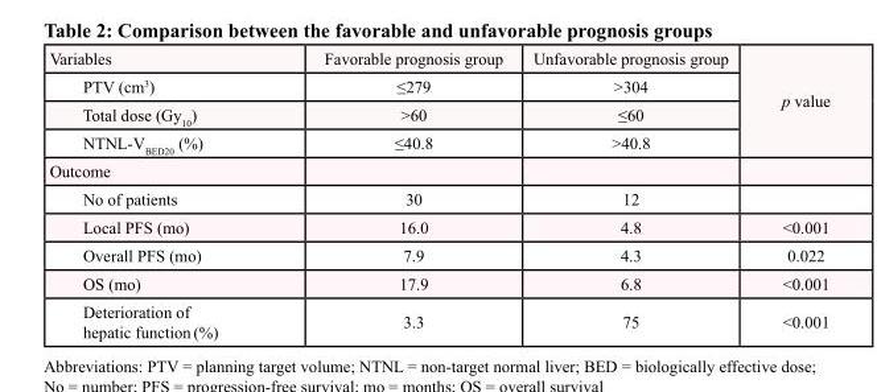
<table><tbody><tr><td>Variables</td><td>Favorable prognosis group</td><td>Unfavorable prognosis group</td><td rowspan="4">p value</td></tr><tr><td>PTV (cm<sup>3</sup>)</td><td>≤279</td><td>&gt;304</td></tr><tr><td>Total dose (Gy<sub>10</sub>)</td><td>&gt;60</td><td>≤60</td></tr><tr><td>NTNL-V<sub>BED20</sub> (%)</td><td>≤40.8</td><td>&gt;40.8</td></tr><tr><td colspan="4">Outcome</td></tr><tr><td>No of patients</td><td>30</td><td>12</td><td></td></tr><tr><td>Local PFS (mo)</td><td>16.0</td><td>4.8</td><td>&lt;0.001</td></tr><tr><td>Overall PFS (mo)</td><td>7.9</td><td>4.3</td><td>0.022</td></tr><tr><td>OS (mo)</td><td>17.9</td><td>6.8</td><td>&lt;0.001</td></tr><tr><td>Deterioration of hepatic function (%)</td><td>3.3</td><td>75</td><td>&lt;0.001</td></tr></tbody></table>